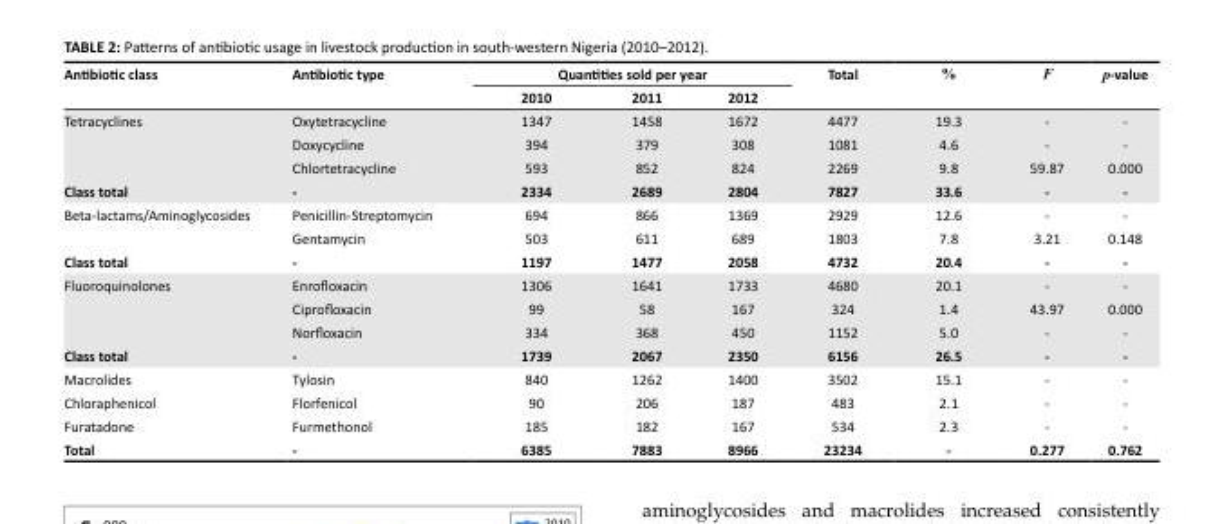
<table><thead><tr><td rowspan="2">Antibiotic class</td><td rowspan="2">Antibiotic type</td><td colspan="3">Quantities sold per year</td><td rowspan="2">Total</td><td rowspan="2">%</td><td rowspan="2">F</td><td rowspan="2">p-value</td></tr><tr><td>2010</td><td>2011</td><td>2012</td></tr></thead><tbody><tr><td rowspan="3">Tetracyclines</td><td>Oxytetracycline</td><td>1347</td><td>1458</td><td>1672</td><td>4477</td><td>19.3</td><td>-</td><td>-</td></tr><tr><td>Doxycycline</td><td>394</td><td>379</td><td>308</td><td>1081</td><td>4.6</td><td>-</td><td>-</td></tr><tr><td>Chlortetracycline</td><td>593</td><td>852</td><td>824</td><td>2269</td><td>9.8</td><td>59.87</td><td>0.000</td></tr><tr><td>Class total</td><td>-</td><td>2334</td><td>2689</td><td>2804</td><td>7827</td><td>33.6</td><td>-</td><td>-</td></tr><tr><td rowspan="2">Beta-lactams/Aminoglycosides</td><td>Penicillin-Streptomycin</td><td>694</td><td>866</td><td>1369</td><td>2929</td><td>12.6</td><td>-</td><td>-</td></tr><tr><td>Gentamycin</td><td>503</td><td>611</td><td>689</td><td>1803</td><td>7.8</td><td>3.21</td><td>0.148</td></tr><tr><td>Class total</td><td>-</td><td>1197</td><td>1477</td><td>2058</td><td>4732</td><td>20.4</td><td>-</td><td>-</td></tr><tr><td rowspan="3">Fluoroquinolones</td><td>Enrofloxacin</td><td>1306</td><td>1641</td><td>1733</td><td>4680</td><td>20.1</td><td>-</td><td>-</td></tr><tr><td>Ciprofloxacin</td><td>99</td><td>58</td><td>167</td><td>324</td><td>1.4</td><td>43.97</td><td>0.000</td></tr><tr><td>Norfloxacin</td><td>334</td><td>368</td><td>450</td><td>1152</td><td>5.0</td><td>-</td><td>-</td></tr><tr><td>Class total</td><td>-</td><td>1739</td><td>2067</td><td>2350</td><td>6156</td><td>26.5</td><td>-</td><td>-</td></tr><tr><td>Macrolides</td><td>Tylosin</td><td>840</td><td>1262</td><td>1400</td><td>3502</td><td>15.1</td><td>-</td><td>-</td></tr><tr><td>Chloraphenicol</td><td>Florfenicol</td><td>90</td><td>206</td><td>187</td><td>483</td><td>2.1</td><td>-</td><td>-</td></tr><tr><td>Furatadone</td><td>Furmethonol</td><td>185</td><td>182</td><td>167</td><td>534</td><td>2.3</td><td>-</td><td>-</td></tr><tr><td>Total</td><td>-</td><td>6385</td><td>7883</td><td>8966</td><td>23234</td><td>-</td><td>0.277</td><td>0.762</td></tr></tbody></table>